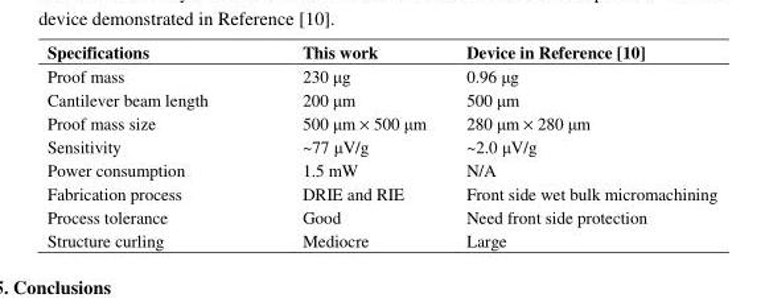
<table><thead><tr><td>Specifications</td><td>This work</td><td>Device in Reference [10]</td></tr></thead><tbody><tr><td>Proof mass</td><td>230 µg</td><td>0.96 µg</td></tr><tr><td>Cantilever beam length</td><td>200 µm</td><td>500 µm</td></tr><tr><td>Proof mass size</td><td>500 µm × 500 µm</td><td>280 µm × 280 µm</td></tr><tr><td>Sensitivity</td><td>~77 µV/g</td><td>~2.0 µV/g</td></tr><tr><td>Power consumption</td><td>1.5 mW</td><td>N/A</td></tr><tr><td>Fabrication process</td><td>DRIE and RIE</td><td>Front side wet bulk micromachining</td></tr><tr><td>Process tolerance</td><td>Good</td><td>Need front side protection</td></tr><tr><td>Structure curling</td><td>Mediocre</td><td>Large</td></tr></tbody></table>